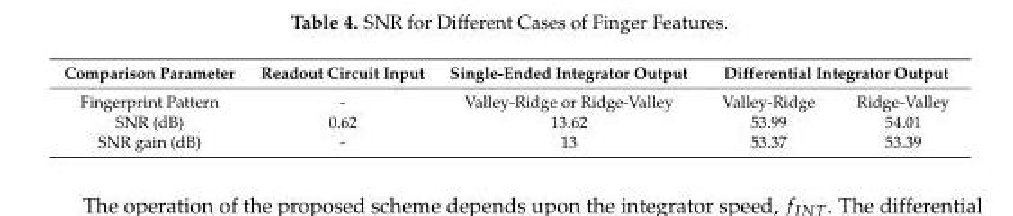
<table><thead><tr><td rowspan="2">Comparison Parameter Fingerprint Pattern</td><td rowspan="2">Readout Circuit Input -</td><td rowspan="2">Single-Ended Integrator Output Valley-Ridge or Ridge-Valley</td><td colspan="2">Differential Integrator Output</td></tr><tr><td>Valley-Ridge</td><td>Ridge-Valley</td></tr></thead><tbody><tr><td>SNR (dB)</td><td>0.62</td><td>13.62</td><td>53.99</td><td>54.01</td></tr><tr><td>SNR gain (dB)</td><td>-</td><td>13</td><td>53.37</td><td>53.39</td></tr></tbody></table>